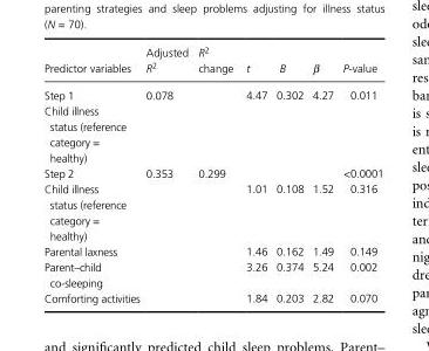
<table><thead><tr><td>Predictor variables</td><td>Adjusted R<sup>2</sup></td><td>R<sup>2</sup> change</td><td>t</td><td>B</td><td>β</td><td>P- value</td></tr></thead><tbody><tr><td>Step 1</td><td>0.078</td><td></td><td>4.47</td><td>0.302</td><td>4.27</td><td>0.011</td></tr><tr><td colspan="7">Child illness status (reference category = healthy)</td></tr><tr><td>Step 2</td><td>0.353</td><td>0.299</td><td></td><td></td><td></td><td>&lt;0.0001</td></tr><tr><td>Child illness status (reference category = healthy)</td><td></td><td></td><td>1.01</td><td>0.108</td><td>1.52</td><td>0.316</td></tr><tr><td>Parental laxness</td><td></td><td></td><td>1.46</td><td>0.162</td><td>1.49</td><td>0.149</td></tr><tr><td>Parent–child co- sleeping</td><td></td><td></td><td>3.26</td><td>0.374</td><td>5.24</td><td>0.002</td></tr><tr><td>Comforting activities</td><td></td><td></td><td>1.84</td><td>0.203</td><td>2.82</td><td>0.070</td></tr></tbody></table>